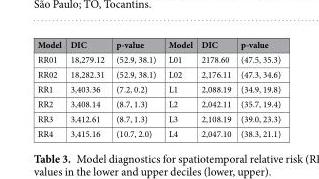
<table><thead><tr><td>Model</td><td>DIC</td><td>p-value</td><td>Model</td><td>DIC</td><td>p-value</td></tr></thead><tbody><tr><td>RR01</td><td>18,279.12</td><td>(52.9, 38.1)</td><td>L01</td><td>2178.60</td><td>(47.5, 35.3)</td></tr><tr><td>RR02</td><td>18,282.31</td><td>(52.9, 38.1)</td><td>L02</td><td>2,176.11</td><td>(47.3, 34.6)</td></tr><tr><td>RR1</td><td>3,403.36</td><td>(7.2, 0.2)</td><td>L1</td><td>2,088.19</td><td>(34.9, 19.8)</td></tr><tr><td>RR2</td><td>3,408.14</td><td>(8.7, 1.3)</td><td>L2</td><td>2,042.11</td><td>(35.7, 19.4)</td></tr><tr><td>RR3</td><td>3,412.61</td><td>(8.7, 1.3)</td><td>L3</td><td>2,108.19</td><td>(39.0, 23.3)</td></tr><tr><td>RR4</td><td>3,415.16</td><td>(10.7, 2.0)</td><td>L4</td><td>2,047.10</td><td>(38.3, 21.1)</td></tr></tbody></table>